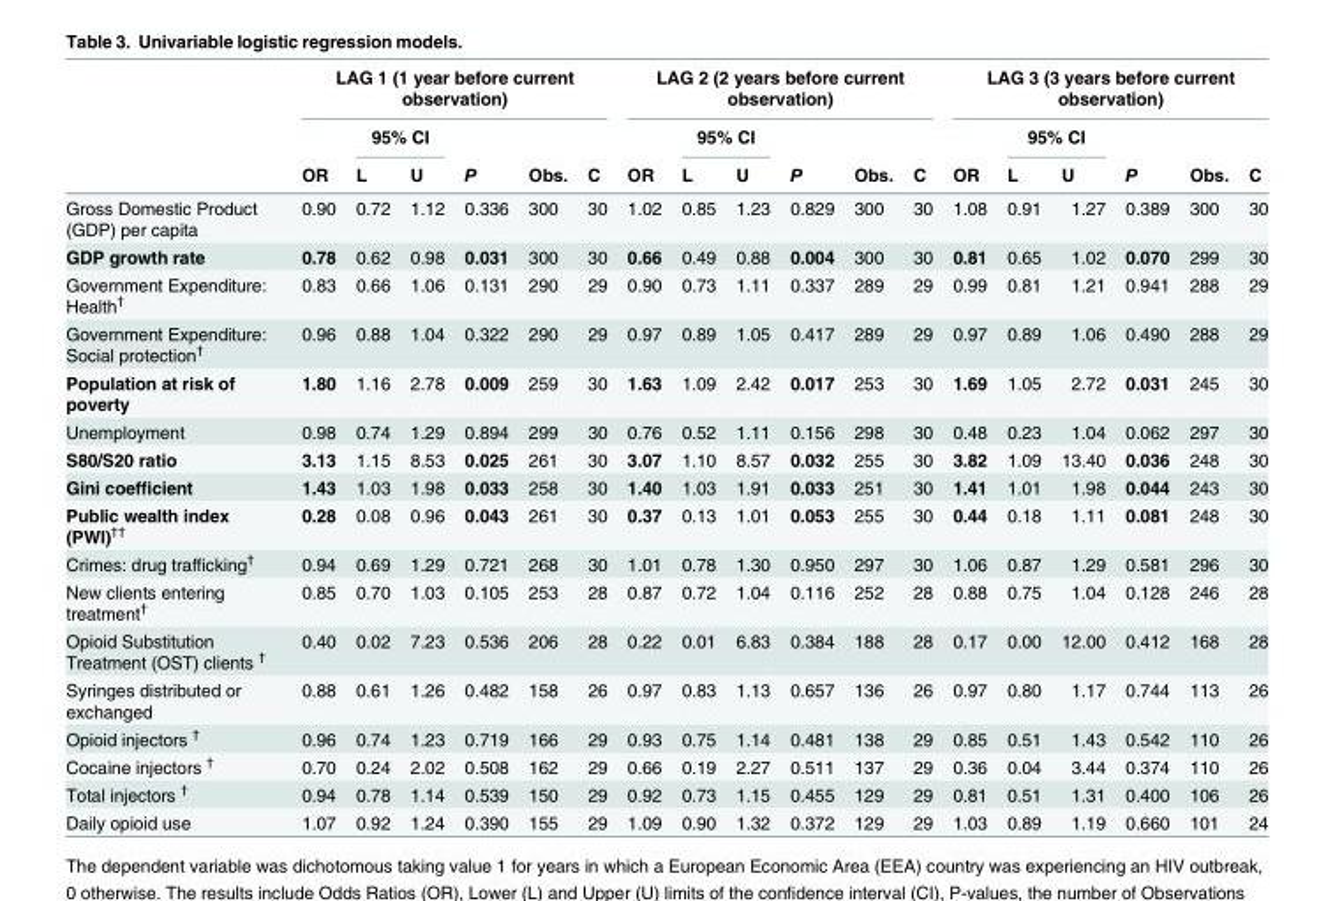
<table><thead><tr><td rowspan="3"></td><td colspan="6">LAG 1 (1 year before current observation)</td><td colspan="6">LAG 2 (2 years before current observation)</td><td colspan="6">LAG 3 (3 years before current observation)</td></tr><tr><td rowspan="2">OR</td><td colspan="2">95% CI</td><td rowspan="2">P</td><td rowspan="2">Obs.</td><td rowspan="2">C</td><td rowspan="2">OR</td><td colspan="2">95% CI</td><td rowspan="2">P</td><td rowspan="2">Obs.</td><td rowspan="2">C</td><td rowspan="2">OR</td><td colspan="2">95% CI</td><td rowspan="2">P</td><td rowspan="2">Obs.</td><td rowspan="2">C</td></tr><tr><td>L</td><td>U</td><td>L</td><td>U</td><td>L</td><td>U</td></tr></thead><tbody><tr><td>Gross Domestic Product (GDP) per capita</td><td>0.90</td><td>0.72</td><td>1.12</td><td>0.336</td><td>300</td><td>30</td><td>1.02</td><td>0.85</td><td>1.23</td><td>0.829</td><td>300</td><td>30</td><td>1.08</td><td>0.91</td><td>1.27</td><td>0.389</td><td>300</td><td>30</td></tr><tr><td>GDP growth rate</td><td>0.78</td><td>0.62</td><td>0.98</td><td>0.031</td><td>300</td><td>30</td><td>0.66</td><td>0.49</td><td>0.88</td><td>0.004</td><td>300</td><td>30</td><td>0.81</td><td>0.65</td><td>1.02</td><td>0.070</td><td>299</td><td>30</td></tr><tr><td>Government Expenditure: Health<sup>†</sup></td><td>0.83</td><td>0.66</td><td>1.06</td><td>0.131</td><td>290</td><td>29</td><td>0.90</td><td>0.73</td><td>1.11</td><td>0.337</td><td>289</td><td>29</td><td>0.99</td><td>0.81</td><td>1.21</td><td>0.941</td><td>288</td><td>29</td></tr><tr><td>Government Expenditure: Social protection<sup>†</sup></td><td>0.96</td><td>0.88</td><td>1.04</td><td>0.322</td><td>290</td><td>29</td><td>0.97</td><td>0.89</td><td>1.05</td><td>0.417</td><td>289</td><td>29</td><td>0.97</td><td>0.89</td><td>1.06</td><td>0.490</td><td>288</td><td>29</td></tr><tr><td>Population at risk of poverty</td><td>1.80</td><td>1.16</td><td>2.78</td><td>0.009</td><td>259</td><td>30</td><td>1.63</td><td>1.09</td><td>2.42</td><td>0.017</td><td>253</td><td>30</td><td>1.69</td><td>1.05</td><td>2.72</td><td>0.031</td><td>245</td><td>30</td></tr><tr><td>Unemployment</td><td>0.98</td><td>0.74</td><td>1.29</td><td>0.894</td><td>299</td><td>30</td><td>0.76</td><td>0.52</td><td>1.11</td><td>0.156</td><td>298</td><td>30</td><td>0.48</td><td>0.23</td><td>1.04</td><td>0.062</td><td>297</td><td>30</td></tr><tr><td>S80/S20 ratio</td><td>3.13</td><td>1.15</td><td>8.53</td><td>0.025</td><td>261</td><td>30</td><td>3.07</td><td>1.10</td><td>8.57</td><td>0.032</td><td>255</td><td>30</td><td>3.82</td><td>1.09</td><td>13.40</td><td>0.036</td><td>248</td><td>30</td></tr><tr><td>Gini coefficient</td><td>1.43</td><td>1.03</td><td>1.98</td><td>0.033</td><td>258</td><td>30</td><td>1.40</td><td>1.03</td><td>1.91</td><td>0.033</td><td>251</td><td>30</td><td>1.41</td><td>1.01</td><td>1.98</td><td>0.044</td><td>243</td><td>30</td></tr><tr><td>Public wealth index (PWI)<sup>††</sup></td><td>0.28</td><td>0.08</td><td>0.96</td><td>0.043</td><td>261</td><td>30</td><td>0.37</td><td>0.13</td><td>1.01</td><td>0.053</td><td>255</td><td>30</td><td>0.44</td><td>0.18</td><td>1.11</td><td>0.081</td><td>248</td><td>30</td></tr><tr><td>Crimes: drug trafficking<sup>†</sup></td><td>0.94</td><td>0.69</td><td>1.29</td><td>0.721</td><td>268</td><td>30</td><td>1.01</td><td>0.78</td><td>1.30</td><td>0.950</td><td>297</td><td>30</td><td>1.06</td><td>0.87</td><td>1.29</td><td>0.581</td><td>296</td><td>30</td></tr><tr><td>New clients entering treatment<sup>†</sup></td><td>0.85</td><td>0.70</td><td>1.03</td><td>0.105</td><td>253</td><td>28</td><td>0.87</td><td>0.72</td><td>1.04</td><td>0.116</td><td>252</td><td>28</td><td>0.88</td><td>0.75</td><td>1.04</td><td>0.128</td><td>246</td><td>28</td></tr><tr><td>Opioid Substitution Treatment (OST) clients <sup>†</sup></td><td>0.40</td><td>0.02</td><td>7.23</td><td>0.536</td><td>206</td><td>28</td><td>0.22</td><td>0.01</td><td>6.83</td><td>0.384</td><td>188</td><td>28</td><td>0.17</td><td>0.00</td><td>12.00</td><td>0.412</td><td>168</td><td>28</td></tr><tr><td>Syringes distributed or exchanged</td><td>0.88</td><td>0.61</td><td>1.26</td><td>0.482</td><td>158</td><td>26</td><td>0.97</td><td>0.83</td><td>1.13</td><td>0.657</td><td>136</td><td>26</td><td>0.97</td><td>0.80</td><td>1.17</td><td>0.744</td><td>113</td><td>26</td></tr><tr><td>Opioid injectors <sup>†</sup></td><td>0.96</td><td>0.74</td><td>1.23</td><td>0.719</td><td>166</td><td>29</td><td>0.93</td><td>0.75</td><td>1.14</td><td>0.481</td><td>138</td><td>29</td><td>0.85</td><td>0.51</td><td>1.43</td><td>0.542</td><td>110</td><td>26</td></tr><tr><td>Cocaine injectors <sup>†</sup></td><td>0.70</td><td>0.24</td><td>2.02</td><td>0.508</td><td>162</td><td>29</td><td>0.66</td><td>0.19</td><td>2.27</td><td>0.511</td><td>137</td><td>29</td><td>0.36</td><td>0.04</td><td>3.44</td><td>0.374</td><td>110</td><td>26</td></tr><tr><td>Total injectors <sup>†</sup></td><td>0.94</td><td>0.78</td><td>1.14</td><td>0.539</td><td>150</td><td>29</td><td>0.92</td><td>0.73</td><td>1.15</td><td>0.455</td><td>129</td><td>29</td><td>0.81</td><td>0.51</td><td>1.31</td><td>0.400</td><td>106</td><td>26</td></tr><tr><td>Daily opioid use</td><td>1.07</td><td>0.92</td><td>1.24</td><td>0.390</td><td>155</td><td>29</td><td>1.09</td><td>0.90</td><td>1.32</td><td>0.372</td><td>129</td><td>29</td><td>1.03</td><td>0.89</td><td>1.19</td><td>0.660</td><td>101</td><td>24</td></tr></tbody></table>